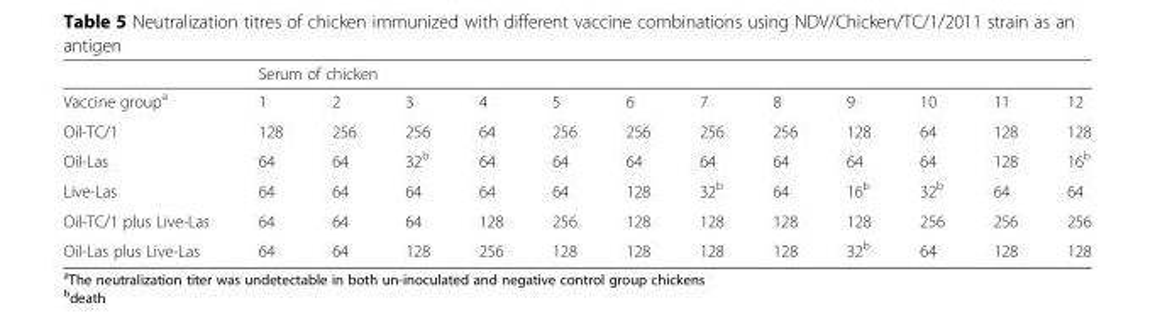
<table><thead><tr><td rowspan="2">Vaccine group<sup>a</sup></td><td colspan="12">Serum of chicken</td></tr><tr><td>1</td><td>2</td><td>3</td><td>4</td><td>5</td><td>6</td><td>7</td><td>8</td><td>9</td><td>10</td><td>11</td><td>12</td></tr></thead><tbody><tr><td>Oil-TC/1</td><td>128</td><td>256</td><td>256</td><td>64</td><td>256</td><td>256</td><td>256</td><td>256</td><td>128</td><td>64</td><td>128</td><td>128</td></tr><tr><td>Oil-Las</td><td>64</td><td>64</td><td>32<sup>b</sup></td><td>64</td><td>64</td><td>64</td><td>64</td><td>64</td><td>64</td><td>64</td><td>128</td><td>16<sup>b</sup></td></tr><tr><td>Live-Las</td><td>64</td><td>64</td><td>64</td><td>64</td><td>64</td><td>128</td><td>32<sup>b</sup></td><td>64</td><td>16<sup>b</sup></td><td>32<sup>b</sup></td><td>64</td><td>64</td></tr><tr><td>Oil-TC/1 plus Live-Las</td><td>64</td><td>64</td><td>64</td><td>128</td><td>256</td><td>128</td><td>128</td><td>128</td><td>128</td><td>256</td><td>256</td><td>256</td></tr><tr><td>Oil-Las plus Live-Las</td><td>64</td><td>64</td><td>128</td><td>256</td><td>128</td><td>128</td><td>128</td><td>128</td><td>32<sup>b</sup></td><td>64</td><td>128</td><td>128</td></tr></tbody></table>